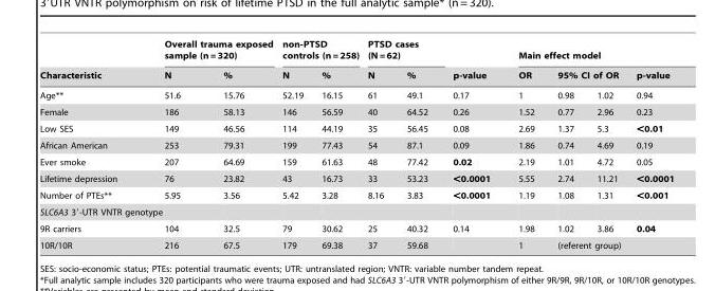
<table><thead><tr><td rowspan="3">Characteristic Age**</td><td colspan="2">Overall trauma exposed sample (n = 320)</td><td colspan="2">non-PTSD controls (n = 258)</td><td colspan="2">PTSD cases (N = 62)</td><td rowspan="3">p-value 0.17</td><td colspan="4">Main effect model</td></tr><tr><td rowspan="2">N 51.6</td><td rowspan="2">% 15.76</td><td rowspan="2">N 52.19</td><td rowspan="2">% 16.15</td><td rowspan="2">N 61</td><td rowspan="2">% 49.1</td><td rowspan="2">OR 1</td><td colspan="2">95% CI of OR</td><td rowspan="2">p-value 0.94</td></tr><tr><td>0.98</td><td>1.02</td></tr></thead><tbody><tr><td>Female</td><td>186</td><td>58.13</td><td>146</td><td>56.59</td><td>40</td><td>64.52</td><td>0.26</td><td>1.52</td><td>0.77</td><td>2.96</td><td>0.23</td></tr><tr><td>Low SES</td><td>149</td><td>46.56</td><td>114</td><td>44.19</td><td>35</td><td>56.45</td><td>0.08</td><td>2.69</td><td>1.37</td><td>5.3</td><td>&lt;0.01</td></tr><tr><td>African American</td><td>253</td><td>79.31</td><td>199</td><td>77.43</td><td>54</td><td>87.1</td><td>0.09</td><td>1.86</td><td>0.74</td><td>4.69</td><td>0.19</td></tr><tr><td>Ever smoke</td><td>207</td><td>64.69</td><td>159</td><td>61.63</td><td>48</td><td>77.42</td><td>0.02</td><td>2.19</td><td>1.01</td><td>4.72</td><td>0.05</td></tr><tr><td>Lifetime depression</td><td>76</td><td>23.82</td><td>43</td><td>16.73</td><td>33</td><td>53.23</td><td>&lt;0.0001</td><td>5.55</td><td>2.74</td><td>11.21</td><td>&lt;0.0001</td></tr><tr><td>Number of PTEs**</td><td>5.95</td><td>3.56</td><td>5.42</td><td>3.28</td><td>8.16</td><td>3.83</td><td>&lt;0.0001</td><td>1.19</td><td>1.08</td><td>1.31</td><td>&lt;0.001</td></tr><tr><td colspan="12">SLC6A3 3′-UTR VNTR genotype</td></tr><tr><td>9R carriers</td><td>104</td><td>32.5</td><td>79</td><td>30.62</td><td>25</td><td>40.32</td><td>0.14</td><td>1.98</td><td>1.02</td><td>3.86</td><td>0.04</td></tr><tr><td>10R/10R</td><td>216</td><td>67.5</td><td>179</td><td>69.38</td><td>37</td><td>59.68</td><td></td><td>1</td><td colspan="2">(referent group)</td><td></td></tr></tbody></table>